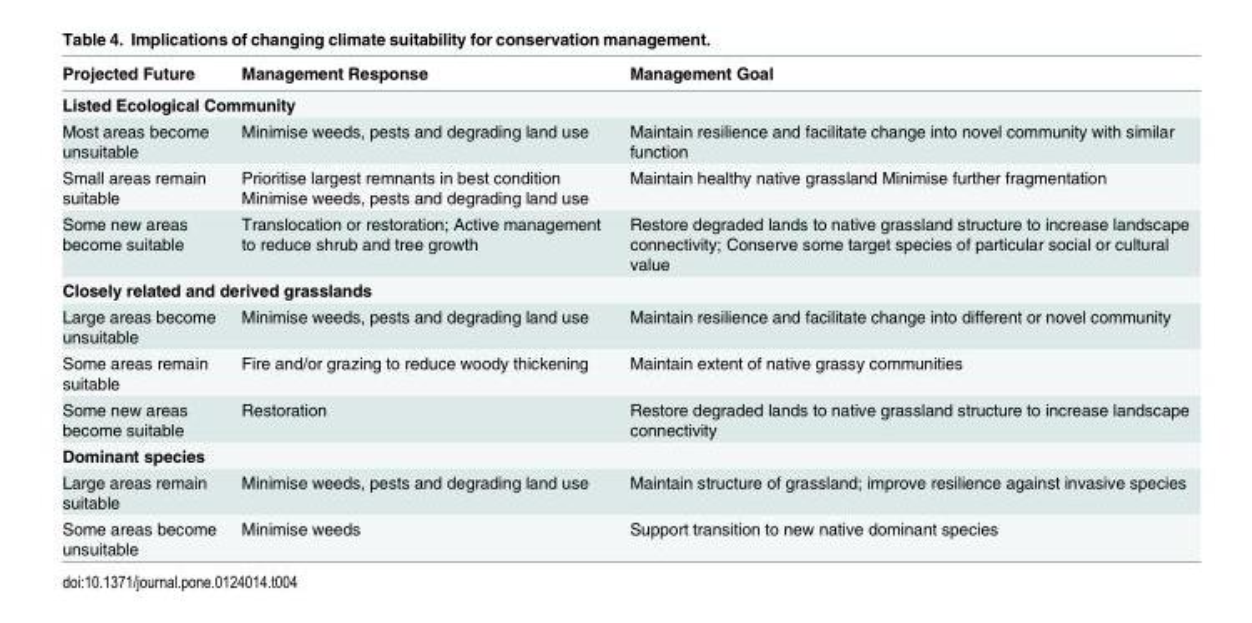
<table><thead><tr><td>Projected Future</td><td>Management Response</td><td>Management Goal</td></tr></thead><tbody><tr><td colspan="3">Listed Ecological Community</td></tr><tr><td>Most areas become unsuitable</td><td>Minimise weeds, pests and degrading land use</td><td>Maintain resilience and facilitate change into novel community with similar function</td></tr><tr><td>Small areas remain suitable</td><td>Prioritise largest remnants in best condition Minimise weeds, pests and degrading land use</td><td>Maintain healthy native grassland Minimise further fragmentation</td></tr><tr><td>Some new areas become suitable</td><td>Translocation or restoration; Active management to reduce shrub and tree growth</td><td>Restore degraded lands to native grassland structure to increase landscape connectivity; Conserve some target species of particular social or cultural value</td></tr><tr><td colspan="3">Closely related and derived grasslands</td></tr><tr><td>Large areas become unsuitable</td><td>Minimise weeds, pests and degrading land use</td><td>Maintain resilience and facilitate change into different or novel community</td></tr><tr><td>Some areas remain suitable</td><td>Fire and/or grazing to reduce woody thickening</td><td>Maintain extent of native grassy communities</td></tr><tr><td>Some new areas become suitable</td><td>Restoration</td><td>Restore degraded lands to native grassland structure to increase landscape connectivity</td></tr><tr><td colspan="3">Dominant species</td></tr><tr><td>Large areas remain suitable</td><td>Minimise weeds, pests and degrading land use</td><td>Maintain structure of grassland; improve resilience against invasive species</td></tr><tr><td>Some areas become unsuitable</td><td>Minimise weeds</td><td>Support transition to new native dominant species</td></tr></tbody></table>